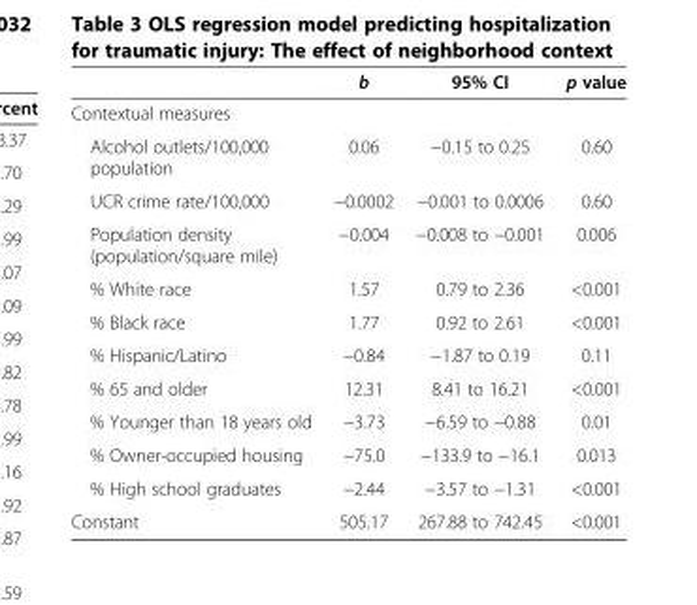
<table><thead><tr><td></td><td>b</td><td>95% CI</td><td>p value</td></tr></thead><tbody><tr><td colspan="4">Contextual measures</td></tr><tr><td>Alcohol outlets/100,000 population</td><td>0.06</td><td>−0.15 to 0.25</td><td>0.60</td></tr><tr><td>UCR crime rate/100,000</td><td>−0.0002</td><td>−0.001 to 0.0006</td><td>0.60</td></tr><tr><td>Population density (population/square mile)</td><td>−0.004</td><td>−0.008 to −0.001</td><td>0.006</td></tr><tr><td>% White race</td><td>1.57</td><td>0.79 to 2.36</td><td>&lt;0.001</td></tr><tr><td>% Black race</td><td>1.77</td><td>0.92 to 2.61</td><td>&lt;0.001</td></tr><tr><td>% Hispanic/Latino</td><td>−0.84</td><td>−1.87 to 0.19</td><td>0.11</td></tr><tr><td>% 65 and older</td><td>12.31</td><td>8.41 to 16.21</td><td>&lt;0.001</td></tr><tr><td>% Younger than 18 years old</td><td>−3.73</td><td>−6.59 to −0.88</td><td>0.01</td></tr><tr><td>% Owner-occupied housing</td><td>−75.0</td><td>−133.9 to −16.1</td><td>0.013</td></tr><tr><td>% High school graduates</td><td>−2.44</td><td>−3.57 to −1.31</td><td>&lt;0.001</td></tr><tr><td>Constant</td><td>505.17</td><td>267.88 to 742.45</td><td>&lt;0.001</td></tr></tbody></table>